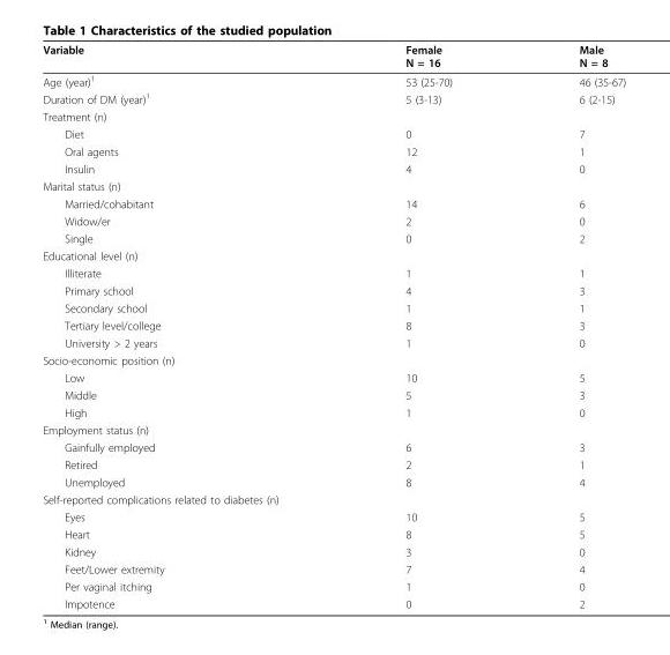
<table><thead><tr><td>Variable</td><td>Female N = 16</td><td>Male N = 8</td></tr></thead><tbody><tr><td>Age (year)<sup>1</sup></td><td>53 (25-70)</td><td>46 (35-67)</td></tr><tr><td>Duration of DM (year)<sup>1</sup></td><td>5 (3-13)</td><td>6 (2-15)</td></tr><tr><td colspan="3">Treatment (n)</td></tr><tr><td>Diet</td><td>0</td><td>7</td></tr><tr><td>Oral agents</td><td>12</td><td>1</td></tr><tr><td>Insulin</td><td>4</td><td>0</td></tr><tr><td colspan="3">Marital status (n)</td></tr><tr><td>Married/cohabitant</td><td>14</td><td>6</td></tr><tr><td>Widow/er</td><td>2</td><td>0</td></tr><tr><td>Single</td><td>0</td><td>2</td></tr><tr><td colspan="3">Educational level (n)</td></tr><tr><td>Illiterate</td><td>1</td><td>1</td></tr><tr><td>Primary school</td><td>4</td><td>3</td></tr><tr><td>Secondary school</td><td>1</td><td>1</td></tr><tr><td>Tertiary level/college</td><td>8</td><td>3</td></tr><tr><td>University &gt; 2 years</td><td>1</td><td>0</td></tr><tr><td colspan="3">Socio-economic position (n)</td></tr><tr><td>Low</td><td>10</td><td>5</td></tr><tr><td>Middle</td><td>5</td><td>3</td></tr><tr><td>High</td><td>1</td><td>0</td></tr><tr><td colspan="3">Employment status (n)</td></tr><tr><td>Gainfully employed</td><td>6</td><td>3</td></tr><tr><td>Retired</td><td>2</td><td>1</td></tr><tr><td>Unemployed</td><td>8</td><td>4</td></tr><tr><td colspan="3">Self-reported complications related to diabetes (n)</td></tr><tr><td>Eyes</td><td>10</td><td>5</td></tr><tr><td>Heart</td><td>8</td><td>5</td></tr><tr><td>Kidney</td><td>3</td><td>0</td></tr><tr><td>Feet/Lower extremity</td><td>7</td><td>4</td></tr><tr><td>Per vaginal itching</td><td>1</td><td>0</td></tr><tr><td>Impotence</td><td>0</td><td>2</td></tr></tbody></table>